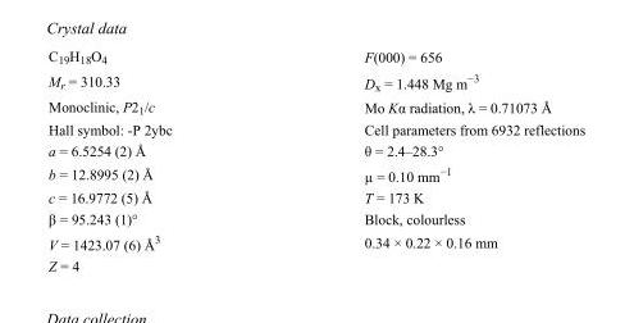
<table><tbody><tr><td>C<sub>19</sub>H<sub>18</sub>O<sub>4</sub></td><td>F(000) = 656</td></tr><tr><td>M<sub>r</sub> = 310.33</td><td>D<sub>x</sub> = 1.448 Mg m<sup>−3</sup></td></tr><tr><td>Monoclinic, P2<sub>1</sub>/c</td><td>Mo Kα radiation, λ = 0.71073 Å</td></tr><tr><td>Hall symbol: -P 2ybc</td><td>Cell parameters from 6932 reflections</td></tr><tr><td>a = 6.5254 (2) Å</td><td>θ = 2.4–28.3°</td></tr><tr><td>b = 12.8995 (2) Å</td><td>µ = 0.10 mm<sup>−1</sup></td></tr><tr><td>c = 16.9772 (5) Å</td><td>T = 173 K</td></tr><tr><td>β = 95.243 (1)°</td><td>Block, colourless</td></tr><tr><td>V = 1423.07 (6) Å<sup>3</sup></td><td>0.34 × 0.22 × 0.16 mm</td></tr><tr><td>Z = 4</td><td></td></tr></tbody></table>